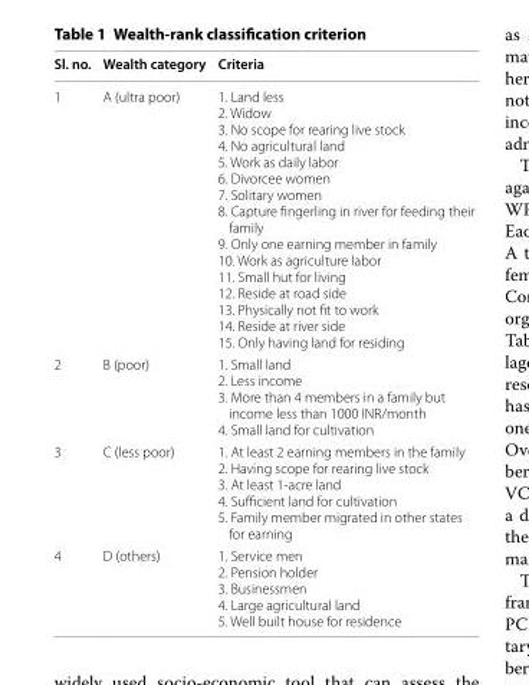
<table><thead><tr><td>Sl. no.</td><td>Wealth category</td><td>Criteria</td></tr></thead><tbody><tr><td>1</td><td>A (ultra poor)</td><td>1. Land less 2. Widow 3. No scope for rearing live stock 4. No agricultural land 5. Work as daily labor 6. Divorcee women 7. Solitary women 8. Capture fingerling in river for feeding their family 9. Only one earning member in family 10. Work as agriculture labor 11. Small hut for living 12. Reside at road side 13. Physically not fit to work 14. Reside at river side 15. Only having land for residing</td></tr><tr><td>2</td><td>B (poor)</td><td>1. Small land 2. Less income 3. More than 4 members in a family but income less than 1000 INR/month 4. Small land for cultivation</td></tr><tr><td>3</td><td>C (less poor)</td><td>1. At least 2 earning members in the family 2. Having scope for rearing live stock 3. At least 1-acre land 4. Sufficient land for cultivation 5. Family member migrated in other states for earning</td></tr><tr><td>4</td><td>D (others)</td><td>1. Service men 2. Pension holder 3. Businessmen 4. Large agricultural land 5. Well built house for residence</td></tr></tbody></table>